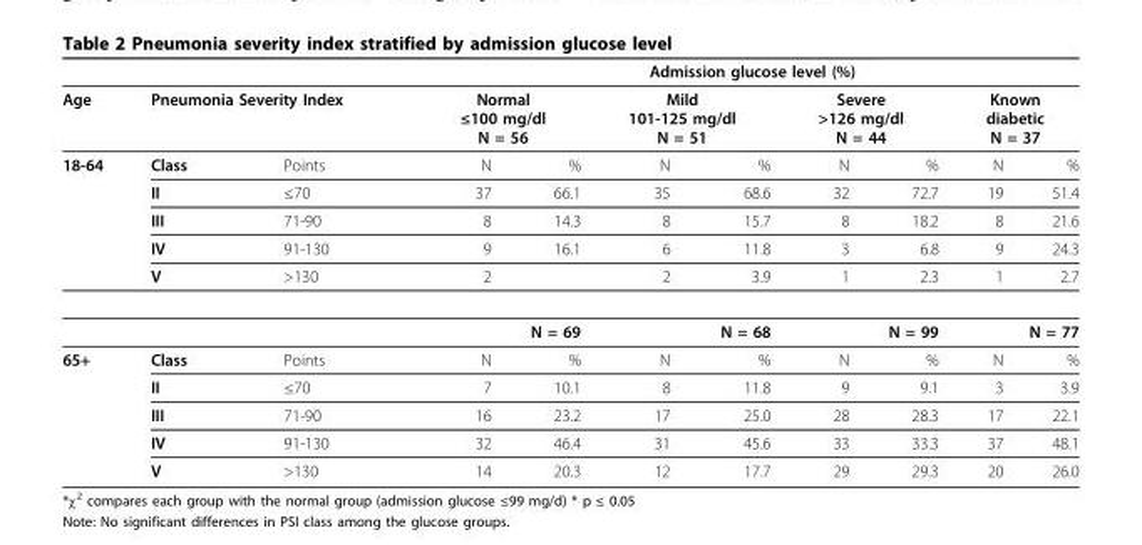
<table><thead><tr><td rowspan="3">Age 18-64</td><td></td><td></td><td colspan="8">Admission glucose level (%)</td></tr><tr><td colspan="2">Pneumonia Severity Index</td><td colspan="2">Normal ≤100 mg/dl N = 56</td><td colspan="2">Mild 101-125 mg/dl N = 51</td><td colspan="2">Severe &gt;126 mg/dl N = 44</td><td colspan="2">Known diabetic N = 37</td></tr><tr><td>Class</td><td>Points</td><td>N</td><td>%</td><td>N</td><td>%</td><td>N</td><td>%</td><td>N</td><td>%</td></tr></thead><tbody><tr><td></td><td>II</td><td>≤70</td><td>37</td><td>66.1</td><td>35</td><td>68.6</td><td>32</td><td>72.7</td><td>19</td><td>51.4</td></tr><tr><td></td><td>III</td><td>71-90</td><td>8</td><td>14.3</td><td>8</td><td>15.7</td><td>8</td><td>18.2</td><td>8</td><td>21.6</td></tr><tr><td></td><td>IV</td><td>91-130</td><td>9</td><td>16.1</td><td>6</td><td>11.8</td><td>3</td><td>6.8</td><td>9</td><td>24.3</td></tr><tr><td></td><td>V</td><td>&gt;130</td><td>2</td><td></td><td>2</td><td>3.9</td><td>1</td><td>2.3</td><td>1</td><td>2.7</td></tr><tr><td></td><td></td><td></td><td colspan="2">N = 69</td><td colspan="2">N = 68</td><td colspan="2">N = 99</td><td colspan="2">N = 77</td></tr><tr><td>65+</td><td>Class</td><td>Points</td><td>N</td><td>%</td><td>N</td><td>%</td><td>N</td><td>%</td><td>N</td><td>%</td></tr><tr><td rowspan="4"></td><td>II</td><td>≤70</td><td>7</td><td>10.1</td><td>8</td><td>11.8</td><td>9</td><td>9.1</td><td>3</td><td>3.9</td></tr><tr><td>III</td><td>71-90</td><td>16</td><td>23.2</td><td>17</td><td>25.0</td><td>28</td><td>28.3</td><td>17</td><td>22.1</td></tr><tr><td>IV</td><td>91-130</td><td>32</td><td>46.4</td><td>31</td><td>45.6</td><td>33</td><td>33.3</td><td>37</td><td>48.1</td></tr><tr><td>V</td><td>&gt;130</td><td>14</td><td>20.3</td><td>12</td><td>17.7</td><td>29</td><td>29.3</td><td>20</td><td>26.0</td></tr></tbody></table>